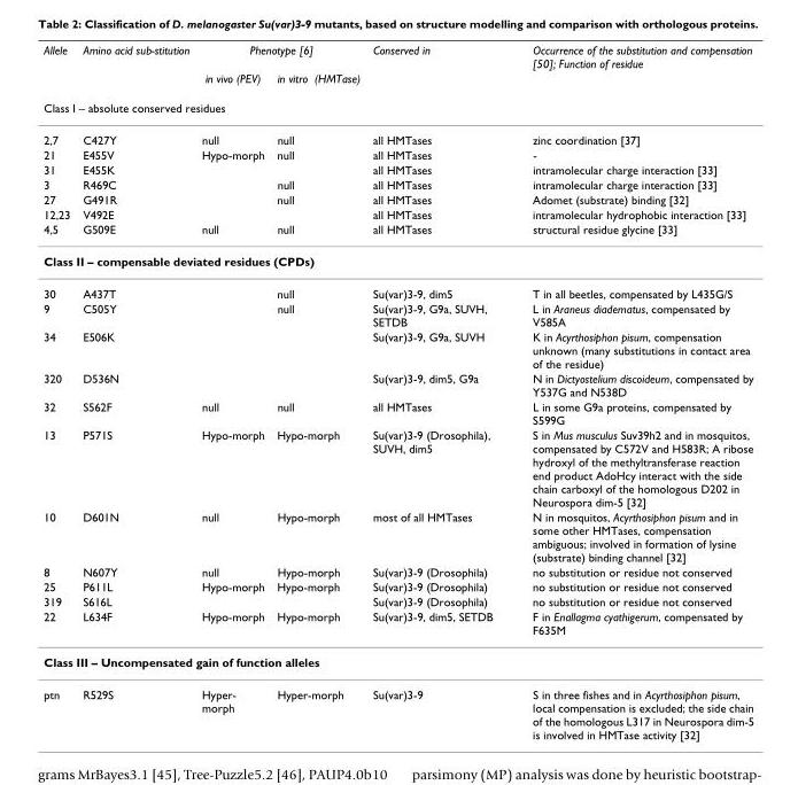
<table><thead><tr><td rowspan="2">Allele</td><td rowspan="2">Amino acid sub-stitution</td><td colspan="2">Phenotype [6]</td><td rowspan="2">Conserved in</td><td rowspan="2">Occurrence of the substitution and compensation [50]; Function of residue</td></tr><tr><td>in vivo (PEV)</td><td>in vitro (HMTase)</td></tr><tr><td colspan="6">Class I – absolute conserved residues</td></tr></thead><tbody><tr><td>2,7</td><td>C427Y</td><td>null</td><td>null</td><td>all HMTases</td><td>zinc coordination [37]</td></tr><tr><td>21</td><td>E455V</td><td>Hypo-morph</td><td>null</td><td>all HMTases</td><td>-</td></tr><tr><td>31</td><td>E455K</td><td></td><td></td><td>all HMTases</td><td>intramolecular charge interaction [33]</td></tr><tr><td>3</td><td>R469C</td><td></td><td>null</td><td>all HMTases</td><td>intramolecular charge interaction [33]</td></tr><tr><td>27</td><td>G491R</td><td></td><td>null</td><td>all HMTases</td><td>Adomet (substrate) binding [32]</td></tr><tr><td>12,23</td><td>V492E</td><td></td><td></td><td>all HMTases</td><td>intramolecular hydrophobic interaction [33]</td></tr><tr><td>4,5</td><td>G509E</td><td>null</td><td>null</td><td>all HMTases</td><td>structural residue glycine [33]</td></tr><tr><td colspan="6">Class II – compensable deviated residues (CPDs)</td></tr><tr><td>30</td><td>A437T</td><td></td><td>null</td><td>Su(var)3-9, dim5</td><td>T in all beetles, compensated by L435G/S</td></tr><tr><td>9</td><td>C505Y</td><td></td><td>null</td><td>Su(var)3-9, G9a, SUVH, SETDB</td><td>L in Araneus diadematus, compensated by V585A</td></tr><tr><td>34</td><td>E506K</td><td></td><td></td><td>Su(var)3-9, G9a, SUVH</td><td>K in Acyrthosiphon pisum, compensation unknown (many substitutions in contact area of the residue)</td></tr><tr><td>320</td><td>D536N</td><td></td><td></td><td>Su(var)3-9, dim5, G9a</td><td>N in Dictyostelium discoideum, compensated by Y537G and N538D</td></tr><tr><td>32</td><td>S562F</td><td>null</td><td>null</td><td>all HMTases</td><td>L in some G9a proteins, compensated by S599G</td></tr><tr><td>13</td><td>P571S</td><td>Hypo-morph</td><td>Hypo-morph</td><td>Su(var)3-9 (Drosophila), SUVH, dim5</td><td>S in Mus musculus Suv39h2 and in mosquitos, compensated by C572V and H583R; A ribose hydroxyl of the methyltransferase reaction end product AdoHcy interact with the side chain carboxyl of the homologous D202 in Neurospora dim-5 [32]</td></tr><tr><td>10</td><td>D601N</td><td>null</td><td>Hypo-morph</td><td>most of all HMTases</td><td>N in mosquitos, Acyrthosiphon pisum and in some other HMTases, compensation ambiguous; involved in formation of lysine (substrate) binding channel [32]</td></tr><tr><td>8</td><td>N607Y</td><td>null</td><td>Hypo-morph</td><td>Su(var)3-9 (Drosophila)</td><td>no substitution or residue not conserved</td></tr><tr><td>25</td><td>P611L</td><td>Hypo-morph</td><td>Hypo-morph</td><td>Su(var)3-9 (Drosophila)</td><td>no substitution or residue not conserved</td></tr><tr><td>319</td><td>S616L</td><td></td><td></td><td>Su(var)3-9 (Drosophila)</td><td>no substitution or residue not conserved</td></tr><tr><td>22</td><td>L634F</td><td>Hypo-morph</td><td>Hypo-morph</td><td>Su(var)3-9, dim5, SETDB</td><td>F in Enallagma cyathigerum, compensated by F635M</td></tr><tr><td colspan="6">Class III – Uncompensated gain of function alleles</td></tr><tr><td>ptn</td><td>R529S</td><td>Hyper- morph</td><td>Hyper-morph</td><td>Su(var)3-9</td><td>S in three fishes and in Acyrthosiphon pisum, local compensation is excluded; the side chain of the homologous L317 in Neurospora dim-5 is involved in HMTase activity [32]</td></tr></tbody></table>